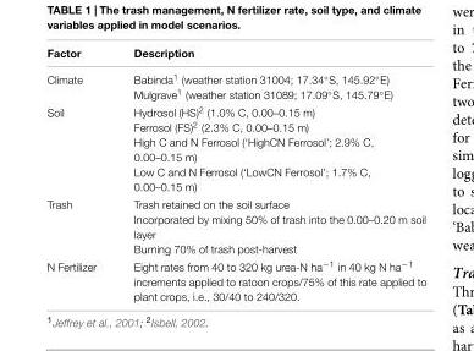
<table><thead><tr><td>Factor</td><td>Description</td></tr></thead><tbody><tr><td>Climate</td><td>Babinda1 (weather station 31004; 17.34◦S, 145.92◦E) Mulgrave1 (weather station 31089; 17.09◦S, 145.79◦E)</td></tr><tr><td>Soil</td><td>Hydrosol (HS)<sup>2</sup> (1.0% C, 0.00–0.15 m) Ferrosol (FS)<sup>2</sup> (2.3% C, 0.00–0.15 m) High C and N Ferrosol (‘HighCN Ferrosol’; 2.9% C, 0.00–0.15 m) Low C and N Ferrosol (‘LowCN Ferrosol’; 1.7% C, 0.00–0.15 m)</td></tr><tr><td>Trash</td><td>Trash retained on the soil surface Incorporated by mixing 50% of trash into the 0.00–0.20 m soil layer Burning 70% of trash post-harvest</td></tr><tr><td>N Fertilizer</td><td>Eight rates from 40 to 320 kg urea-N ha<sup>−1</sup> in 40 kg N ha<sup>−1</sup> increments applied to ratoon crops/75% of this rate applied to plant crops, i.e., 30/40 to 240/320.</td></tr></tbody></table>